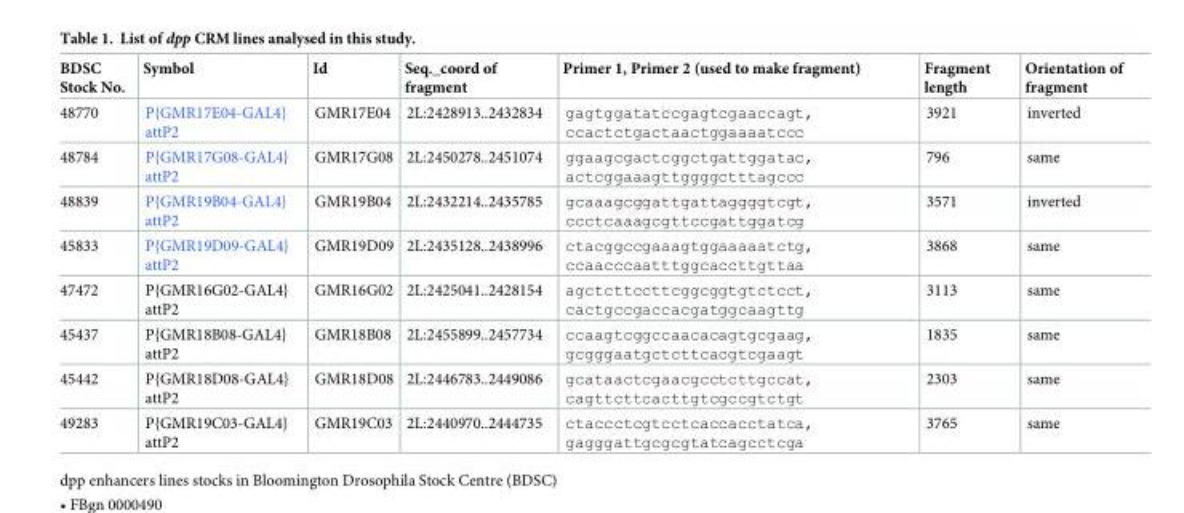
<table><thead><tr><td>BDSC Stock No.</td><td>Symbol</td><td>Id</td><td>Seq._coord of fragment</td><td>Primer 1, Primer 2 (used to make fragment)</td><td>Fragment length</td><td>Orientation of fragment</td></tr></thead><tbody><tr><td>48770</td><td>P{GMR17E04-GAL4} attP2</td><td>GMR17E04</td><td>2L:2428913..2432834</td><td>gagtggatatccgagtcgaaccagt, ccactctgactaactggaaaatccc</td><td>3921</td><td>inverted</td></tr><tr><td>48784</td><td>P{GMR17G08-GAL4} attP2</td><td>GMR17G08</td><td>2L:2450278..2451074</td><td>ggaagcgactcggctgattggatac, actcggaaagttggggctttagccc</td><td>796</td><td>same</td></tr><tr><td>48839</td><td>P{GMR19B04-GAL4} attP2</td><td>GMR19B04</td><td>2L:2432214..2435785</td><td>gcaaagcggattgattaggggtcgt, ccctcaaagcgttccgattggatcg</td><td>3571</td><td>inverted</td></tr><tr><td>45833</td><td>P{GMR19D09-GAL4} attP2</td><td>GMR19D09</td><td>2L:2435128..2438996</td><td>ctacggccgaaagtggaaaaatctg, ccaacccaatttggcaccttgttaa</td><td>3868</td><td>same</td></tr><tr><td>47472</td><td>P{GMR16G02-GAL4} attP2</td><td>GMR16G02</td><td>2L:2425041..2428154</td><td>agctcttccttcggcggtgtctcct, cactgccgaccacgatggcaagttg</td><td>3113</td><td>same</td></tr><tr><td>45437</td><td>P{GMR18B08-GAL4} attP2</td><td>GMR18B08</td><td>2L:2455899..2457734</td><td>ccaagtcggccaacacagtgcgaag, gcgggaatgctcttcacgtcgaagt</td><td>1835</td><td>same</td></tr><tr><td>45442</td><td>P{GMR18D08-GAL4} attP2</td><td>GMR18D08</td><td>2L:2446783..2449086</td><td>gcataactcgaacgcctcttgccat, cagttcttcacttgtcgccgtctgt</td><td>2303</td><td>same</td></tr><tr><td>49283</td><td>P{GMR19C03-GAL4} attP2</td><td>GMR19C03</td><td>2L:2440970..2444735</td><td>ctaccctcgtcctcaccacctatca, gagggattgcgcgtatcagcctcga</td><td>3765</td><td>same</td></tr></tbody></table>